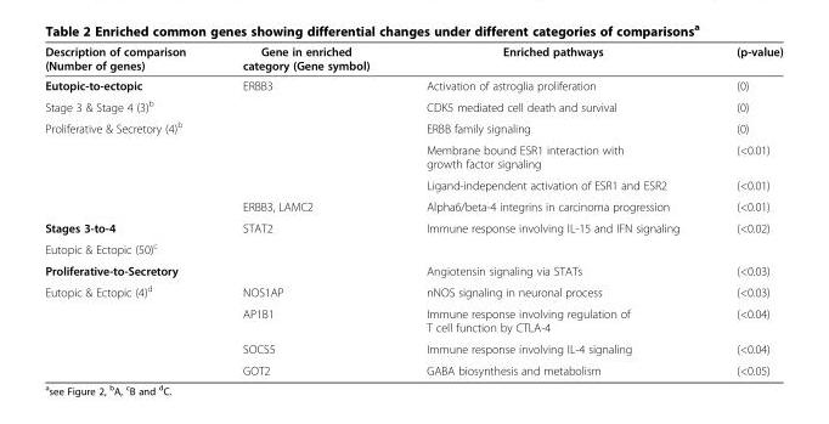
<table><thead><tr><td>Description of comparison (Number of genes)</td><td>Gene in enriched category (Gene symbol)</td><td>Enriched pathways</td><td>(p-value)</td></tr></thead><tbody><tr><td>Eutopic-to-ectopic</td><td>ERBB3</td><td>Activation of astroglia proliferation</td><td>(0)</td></tr><tr><td>Stage 3 &amp; Stage 4 (3)<sup>b</sup></td><td></td><td>CDK5 mediated cell death and survival</td><td>(0)</td></tr><tr><td rowspan="4">Proliferative &amp; Secretory (4)<sup>b</sup></td><td></td><td>ERBB family signaling</td><td>(0)</td></tr><tr><td></td><td>Membrane bound ESR1 interaction with growth factor signaling</td><td>(&lt;0.01)</td></tr><tr><td></td><td>Ligand-independent activation of ESR1 and ESR2</td><td>(&lt;0.01)</td></tr><tr><td>ERBB3, LAMC2</td><td>Alpha6/beta-4 integrins in carcinoma progression</td><td>(&lt;0.01)</td></tr><tr><td>Stages 3-to-4</td><td rowspan="2">STAT2</td><td rowspan="2">Immune response involving IL-15 and IFN signaling</td><td rowspan="2">(&lt;0.02)</td></tr><tr><td>Eutopic &amp; Ectopic (50)<sup>c</sup></td></tr><tr><td>Proliferative-to-Secretory</td><td></td><td>Angiotensin signaling via STATs</td><td>(&lt;0.03)</td></tr><tr><td rowspan="4">Eutopic &amp; Ectopic (4)<sup>d</sup></td><td>NOS1AP</td><td>nNOS signaling in neuronal process</td><td>(&lt;0.03)</td></tr><tr><td>AP1B1</td><td>Immune response involving regulation of T cell function by CTLA-4</td><td>(&lt;0.04)</td></tr><tr><td>SOCS5</td><td>Immune response involving IL-4 signaling</td><td>(&lt;0.04)</td></tr><tr><td>GOT2</td><td>GABA biosynthesis and metabolism</td><td>(&lt;0.05)</td></tr></tbody></table>